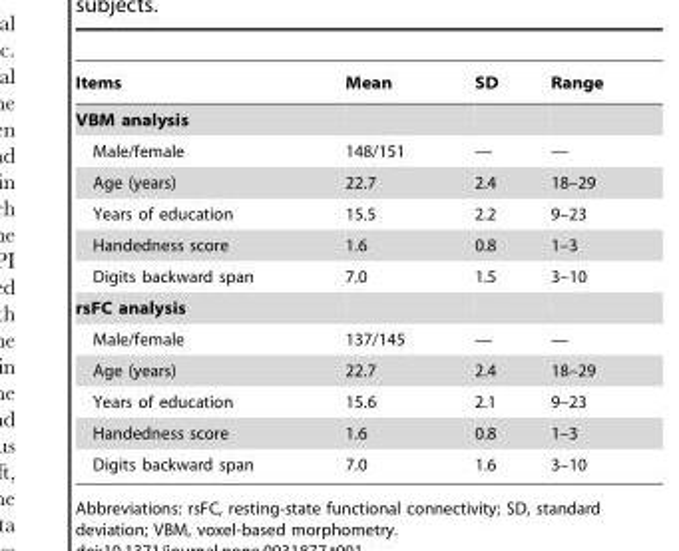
<table><thead><tr><td>Items</td><td>Mean</td><td>SD</td><td>Range</td></tr></thead><tbody><tr><td colspan="4">VBM analysis</td></tr><tr><td>Male/female</td><td>148/151</td><td>—</td><td>—</td></tr><tr><td>Age (years)</td><td>22.7</td><td>2.4</td><td>18–29</td></tr><tr><td>Years of education</td><td>15.5</td><td>2.2</td><td>9–23</td></tr><tr><td>Handedness score</td><td>1.6</td><td>0.8</td><td>1–3</td></tr><tr><td>Digits backward span</td><td>7.0</td><td>1.5</td><td>3–10</td></tr><tr><td colspan="4">rsFC analysis</td></tr><tr><td>Male/female</td><td>137/145</td><td>—</td><td>—</td></tr><tr><td>Age (years)</td><td>22.7</td><td>2.4</td><td>18–29</td></tr><tr><td>Years of education</td><td>15.6</td><td>2.1</td><td>9–23</td></tr><tr><td>Handedness score</td><td>1.6</td><td>0.8</td><td>1–3</td></tr><tr><td>Digits backward span</td><td>7.0</td><td>1.6</td><td>3–10</td></tr></tbody></table>